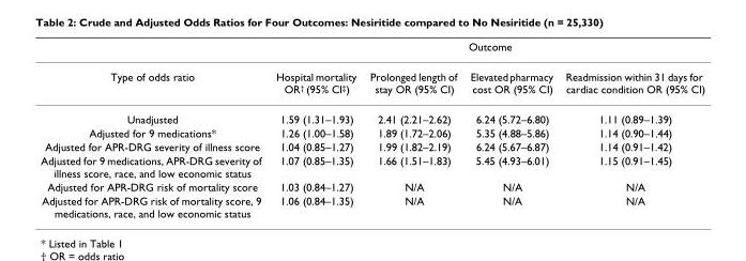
<table><thead><tr><td rowspan="2">Type of odds ratio</td><td colspan="4">Outcome</td></tr><tr><td>Hospital mortality OR<sup>†</sup> (95% CI<sup>‡</sup>)</td><td>Prolonged length of stay OR (95% CI)</td><td>Elevated pharmacy cost OR (95% CI)</td><td>Readmission within 31 days for cardiac condition OR (95% CI)</td></tr></thead><tbody><tr><td>Unadjusted</td><td>1.59 (1.31–1.93)</td><td>2.41 (2.21–2.62)</td><td>6.24 (5.72–6.80)</td><td>1.11 (0.89–1.39)</td></tr><tr><td>Adjusted for 9 medications*</td><td>1.26 (1.00–1.58)</td><td>1.89 (1.72–2.06)</td><td>5.35 (4.88–5.86)</td><td>1.14 (0.90–1.44)</td></tr><tr><td>Adjusted for APR-DRG severity of illness score</td><td>1.04 (0.85–1.27)</td><td>1.99 (1.82–2.19)</td><td>6.24 (5.67–6.87)</td><td>1.14 (0.91–1.42)</td></tr><tr><td>Adjusted for 9 medications, APR-DRG severity of illness score, race, and low economic status</td><td>1.07 (0.85–1.35)</td><td>1.66 (1.51–1.83)</td><td>5.45 (4.93–6.01)</td><td>1.15 (0.91–1.45)</td></tr><tr><td>Adjusted for APR-DRG risk of mortality score</td><td>1.03 (0.84–1.27)</td><td>N/A</td><td>N/A</td><td>N/A</td></tr><tr><td>Adjusted for APR-DRG risk of mortality score, 9 medications, race, and low economic status</td><td>1.06 (0.84–1.35)</td><td>N/A</td><td>N/A</td><td>N/A</td></tr></tbody></table>